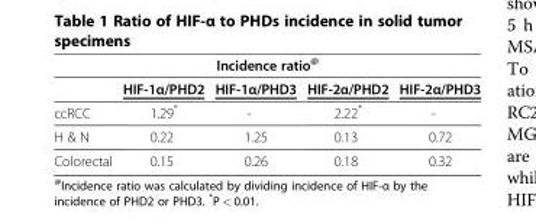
<table><thead><tr><td colspan="5">Incidence ratio<sup>@</sup></td></tr><tr><td></td><td>HIF-1α/PHD2</td><td>HIF-1α/PHD3</td><td>HIF-2α/PHD2</td><td>HIF-2α/PHD3</td></tr></thead><tbody><tr><td>ccRCC</td><td>1.29*</td><td>-</td><td>2.22*</td><td>-</td></tr><tr><td>H &amp; N</td><td>0.22</td><td>1.25</td><td>0.13</td><td>0.72</td></tr><tr><td>Colorectal</td><td>0.15</td><td>0.26</td><td>0.18</td><td>0.32</td></tr></tbody></table>